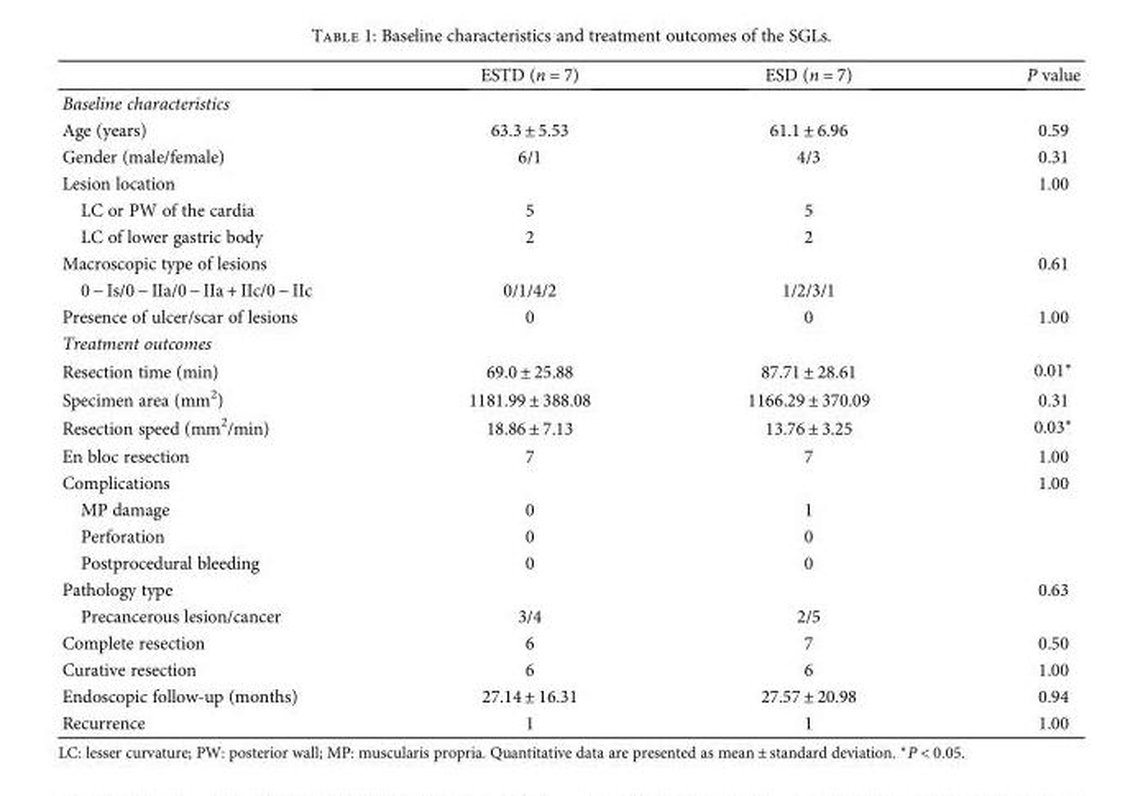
<table><thead><tr><td></td><td>ESTD (n = 7)</td><td>ESD (n = 7)</td><td>P value</td></tr></thead><tbody><tr><td colspan="4">Baseline characteristics</td></tr><tr><td>Age (years)</td><td>63.3 ± 5.53</td><td>61.1 ± 6.96</td><td>0.59</td></tr><tr><td>Gender (male/female)</td><td>6/1</td><td>4/3</td><td>0.31</td></tr><tr><td>Lesion location</td><td></td><td></td><td>1.00</td></tr><tr><td>LC or PW of the cardia</td><td>5</td><td>5</td><td></td></tr><tr><td>LC of lower gastric body</td><td>2</td><td>2</td><td></td></tr><tr><td>Macroscopic type of lesions</td><td></td><td></td><td>0.61</td></tr><tr><td>0 − Is/0 − IIa/0 − IIa + IIc/0 − IIc</td><td>0/1/4/2</td><td>1/2/3/1</td><td></td></tr><tr><td>Presence of ulcer/scar of lesions</td><td>0</td><td>0</td><td>1.00</td></tr><tr><td colspan="4">Treatment outcomes</td></tr><tr><td>Resection time (min)</td><td>69.0 ± 25.88</td><td>87.71 ± 28.61</td><td>0.01∗</td></tr><tr><td>Specimen area (mm<sup>2</sup>)</td><td>1181.99 ± 388.08</td><td>1166.29 ± 370.09</td><td>0.31</td></tr><tr><td>Resection speed (mm<sup>2</sup>/min)</td><td>18.86 ± 7.13</td><td>13.76 ± 3.25</td><td>0.03∗</td></tr><tr><td>En bloc resection</td><td>7</td><td>7</td><td>1.00</td></tr><tr><td>Complications</td><td></td><td></td><td>1.00</td></tr><tr><td>MP damage</td><td>0</td><td>1</td><td></td></tr><tr><td>Perforation</td><td>0</td><td>0</td><td></td></tr><tr><td>Postprocedural bleeding</td><td>0</td><td>0</td><td></td></tr><tr><td>Pathology type</td><td></td><td></td><td>0.63</td></tr><tr><td>Precancerous lesion/cancer</td><td>3/4</td><td>2/5</td><td></td></tr><tr><td>Complete resection</td><td>6</td><td>7</td><td>0.50</td></tr><tr><td>Curative resection</td><td>6</td><td>6</td><td>1.00</td></tr><tr><td>Endoscopic follow-up (months)</td><td>27.14 ± 16.31</td><td>27.57 ± 20.98</td><td>0.94</td></tr><tr><td>Recurrence</td><td>1</td><td>1</td><td>1.00</td></tr></tbody></table>